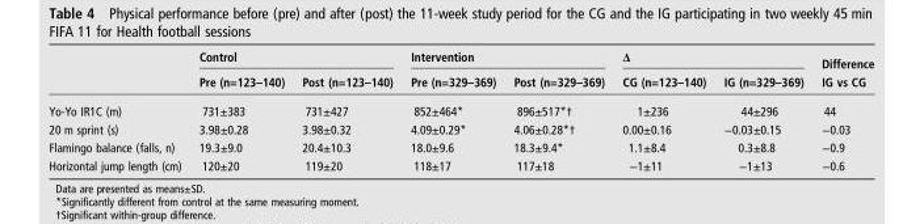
<table><thead><tr><td rowspan="2"></td><td colspan="2">Control</td><td colspan="2">Intervention</td><td colspan="2">Δ</td><td rowspan="2">Difference IG vs CG</td></tr><tr><td>Pre (n=123–140)</td><td>Post (n=123–140)</td><td>Pre (n=329–369)</td><td>Post (n=329–369)</td><td>CG (n=123–140)</td><td>IG (n=329–369)</td></tr></thead><tbody><tr><td>Yo-Yo IR1C (m)</td><td>731±383</td><td>731±427</td><td>852±464*</td><td>896±517*†</td><td>1±236</td><td>44±296</td><td>44</td></tr><tr><td>20 m sprint (s)</td><td>3.98±0.28</td><td>3.98±0.32</td><td>4.09±0.29*</td><td>4.06±0.28*†</td><td>0.00±0.16</td><td>−0.03±0.15</td><td>−0.03</td></tr><tr><td>Flamingo balance (falls, n)</td><td>19.3±9.0</td><td>20.4±10.3</td><td>18.0±9.6</td><td>18.3±9.4*</td><td>1.1±8.4</td><td>0.3±8.8</td><td>−0.9</td></tr><tr><td>Horizontal jump length (cm)</td><td>120±20</td><td>119±20</td><td>118±17</td><td>117±18</td><td>−1±11</td><td>−1±13</td><td>−0.6</td></tr></tbody></table>